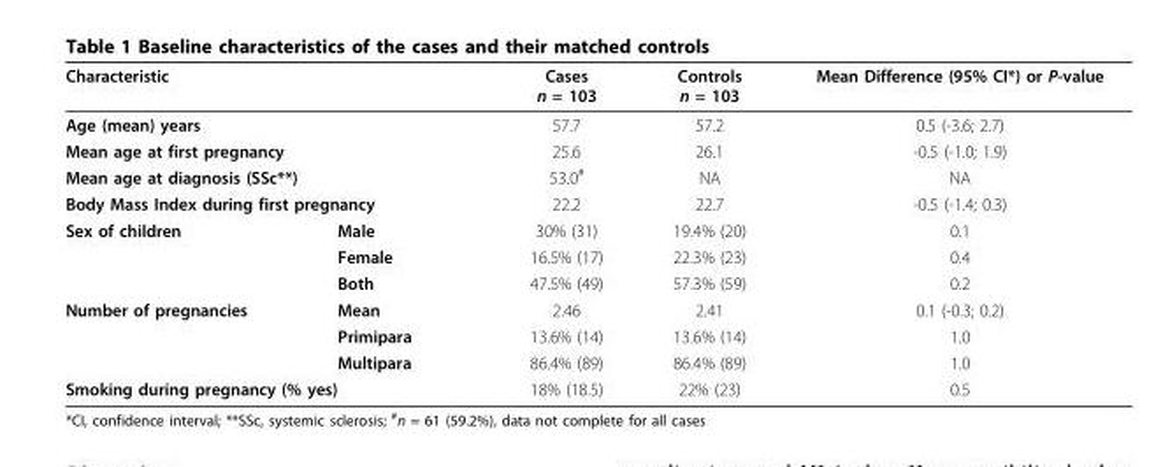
<table><thead><tr><td colspan="2">Characteristic</td><td>Cases n = 103</td><td>Controls n = 103</td><td>Mean Difference (95% CI*) or P-value</td></tr></thead><tbody><tr><td colspan="2">Age (mean) years</td><td>57.7</td><td>57.2</td><td>0.5 (-3.6; 2.7)</td></tr><tr><td colspan="2">Mean age at first pregnancy</td><td>25.6</td><td>26.1</td><td>-0.5 (-1.0; 1.9)</td></tr><tr><td colspan="2">Mean age at diagnosis (SSc**)</td><td>53.0<sup>#</sup></td><td>NA</td><td>NA</td></tr><tr><td colspan="2">Body Mass Index during first pregnancy</td><td>22.2</td><td>22.7</td><td>-0.5 (-1.4; 0.3)</td></tr><tr><td rowspan="3">Sex of children</td><td>Male</td><td>30% (31)</td><td>19.4% (20)</td><td>0.1</td></tr><tr><td>Female</td><td>16.5% (17)</td><td>22.3% (23)</td><td>0.4</td></tr><tr><td>Both</td><td>47.5% (49)</td><td>57.3% (59)</td><td>0.2</td></tr><tr><td rowspan="3">Number of pregnancies</td><td>Mean</td><td>2.46</td><td>2.41</td><td>0.1 (-0.3; 0.2)</td></tr><tr><td>Primipara</td><td>13.6% (14)</td><td>13.6% (14)</td><td>1.0</td></tr><tr><td>Multipara</td><td>86.4% (89)</td><td>86.4% (89)</td><td>1.0</td></tr><tr><td colspan="2">Smoking during pregnancy (% yes)</td><td>18% (18.5)</td><td>22% (23)</td><td>0.5</td></tr></tbody></table>